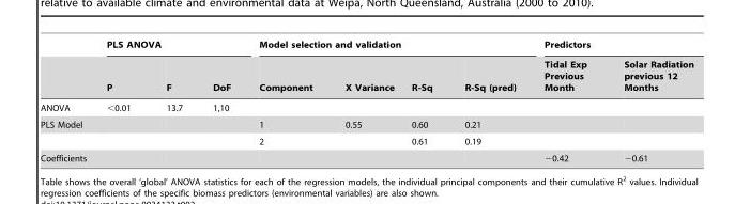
<table><thead><tr><td rowspan="2"></td><td colspan="3">PLS ANOVA</td><td colspan="4">Model selection and validation</td><td colspan="2">Predictors</td></tr><tr><td>P</td><td>F</td><td>DoF</td><td>Component</td><td>X Variance</td><td>R-Sq</td><td>R-Sq (pred)</td><td>Tidal Exp Previous Month</td><td>Solar Radiation previous 12 Months</td></tr></thead><tbody><tr><td>ANOVA</td><td>&lt;0.01</td><td>13.7</td><td>1,10</td><td></td><td></td><td></td><td></td><td></td><td></td></tr><tr><td rowspan="2">PLS Model</td><td></td><td></td><td></td><td>1</td><td>0.55</td><td>0.60</td><td>0.21</td><td></td><td></td></tr><tr><td></td><td></td><td></td><td>2</td><td></td><td>0.61</td><td>0.19</td><td></td><td></td></tr><tr><td>Coefficients</td><td></td><td></td><td></td><td></td><td></td><td></td><td></td><td>−0.42</td><td>−0.61</td></tr></tbody></table>